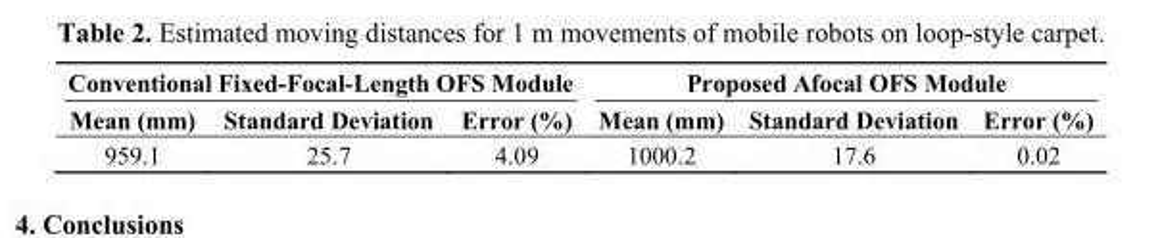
<table><thead><tr><td colspan="3">Conventional Fixed-Focal-Length OFS Module</td><td colspan="3">Proposed Afocal OFS Module</td></tr><tr><td>Mean (mm)</td><td>Standard Deviation</td><td>Error (%)</td><td>Mean (mm)</td><td>Standard Deviation</td><td>Error (%)</td></tr></thead><tbody><tr><td>959.1</td><td>25.7</td><td>4.09</td><td>1000.2</td><td>17.6</td><td>0.02</td></tr></tbody></table>